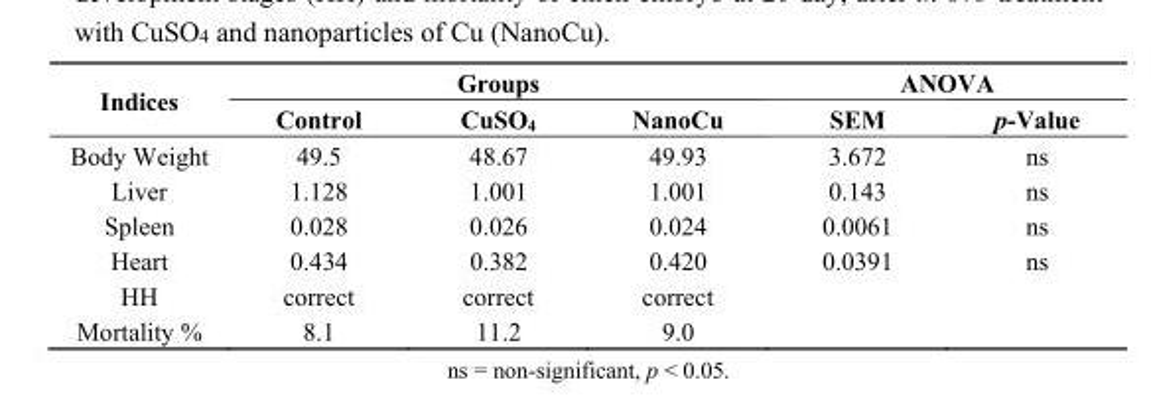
<table><thead><tr><td rowspan="2">Indices</td><td colspan="3">Groups</td><td colspan="2">ANOVA</td></tr><tr><td>Control</td><td>CuSO<sub>4</sub></td><td>NanoCu</td><td>SEM</td><td>p-Value</td></tr></thead><tbody><tr><td>Body Weight</td><td>49.5</td><td>48.67</td><td>49.93</td><td>3.672</td><td>ns</td></tr><tr><td>Liver</td><td>1.128</td><td>1.001</td><td>1.001</td><td>0.143</td><td>ns</td></tr><tr><td>Spleen</td><td>0.028</td><td>0.026</td><td>0.024</td><td>0.0061</td><td>ns</td></tr><tr><td>Heart</td><td>0.434</td><td>0.382</td><td>0.420</td><td>0.0391</td><td>ns</td></tr><tr><td>HH</td><td>correct</td><td>correct</td><td>correct</td><td></td><td></td></tr><tr><td>Mortality %</td><td>8.1</td><td>11.2</td><td>9.0</td><td></td><td></td></tr></tbody></table>